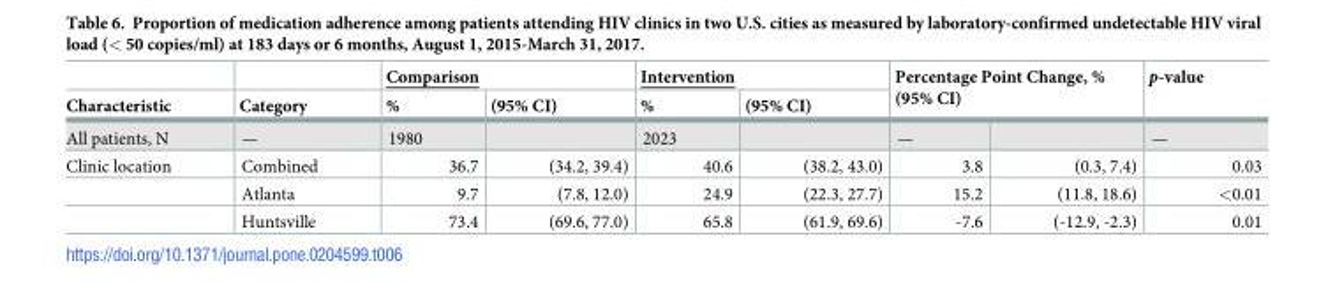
<table><thead><tr><td rowspan="3">Characteristic All patients, N</td><td rowspan="3">Category —</td><td colspan="2">Comparison</td><td colspan="2">Intervention</td><td rowspan="2" colspan="2">Percentage Point Change, % (95% CI)</td><td rowspan="3">p-value —</td></tr><tr><td rowspan="2">% 1980</td><td rowspan="2">(95% CI)</td><td rowspan="2">% 2023</td><td rowspan="2">(95% CI)</td></tr><tr><td>—</td><td></td></tr></thead><tbody><tr><td rowspan="3">Clinic location</td><td>Combined</td><td>36.7</td><td>(34.2, 39.4)</td><td>40.6</td><td>(38.2, 43.0)</td><td>3.8</td><td>(0.3, 7.4)</td><td>0.03</td></tr><tr><td>Atlanta</td><td>9.7</td><td>(7.8, 12.0)</td><td>24.9</td><td>(22.3, 27.7)</td><td>15.2</td><td>(11.8, 18.6)</td><td>&lt;0.01</td></tr><tr><td>Huntsville</td><td>73.4</td><td>(69.6, 77.0)</td><td>65.8</td><td>(61.9, 69.6)</td><td>-7.6</td><td>(-12.9, -2.3)</td><td>0.01</td></tr></tbody></table>